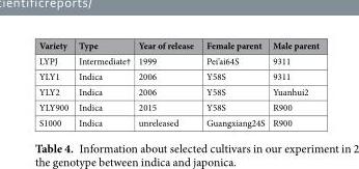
<table><thead><tr><td>Variety</td><td>Type</td><td>Year of release</td><td>Female parent</td><td>Male parent</td></tr></thead><tbody><tr><td>LYPJ</td><td>Intermediate†</td><td>1999</td><td>Pei’ai64S</td><td>9311</td></tr><tr><td>YLY1</td><td>Indica</td><td>2006</td><td>Y58S</td><td>9311</td></tr><tr><td>YLY2</td><td>Indica</td><td>2006</td><td>Y58S</td><td>Yuanhui2</td></tr><tr><td>YLY900</td><td>Indica</td><td>2015</td><td>Y58S</td><td>R900</td></tr><tr><td>S1000</td><td>Indica</td><td>unreleased</td><td>Guangxiang24S</td><td>R900</td></tr></tbody></table>